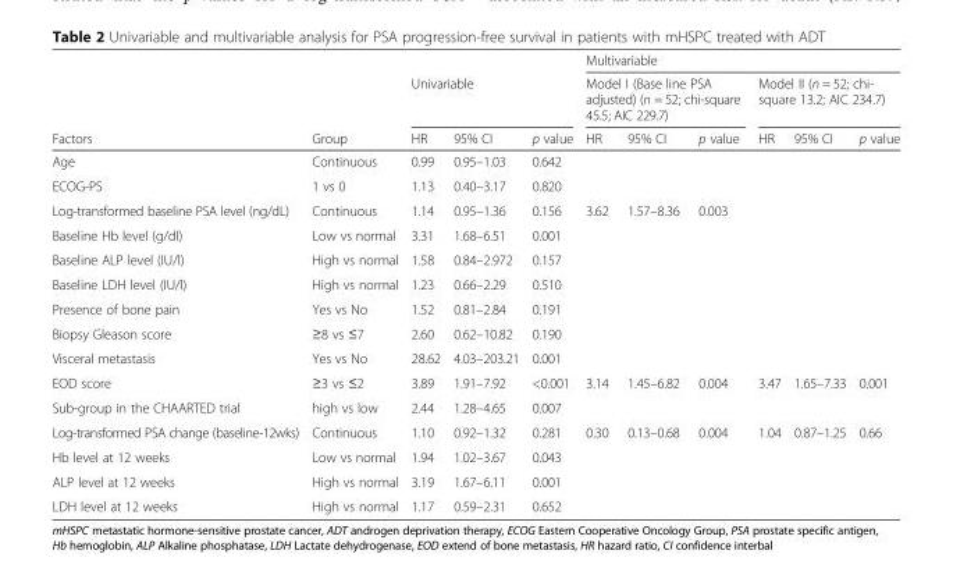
<table><thead><tr><td rowspan="3">Factors</td><td rowspan="3">Group</td><td></td><td></td><td></td><td colspan="6">Multivariable</td></tr><tr><td colspan="3">Univariable</td><td colspan="3">Model I (Base line PSA adjusted) (n = 52; chi-square 45.5; AIC 229.7)</td><td colspan="3">Model II (n = 52; chi- square 13.2; AIC 234.7)</td></tr><tr><td>HR</td><td>95% CI</td><td>p value</td><td>HR</td><td>95% CI</td><td>p value</td><td>HR</td><td>95% CI</td><td>p value</td></tr></thead><tbody><tr><td>Age</td><td>Continuous</td><td>0.99</td><td>0.95–1.03</td><td>0.642</td><td></td><td></td><td></td><td></td><td></td><td></td></tr><tr><td>ECOG-PS</td><td>1 vs 0</td><td>1.13</td><td>0.40–3.17</td><td>0.820</td><td></td><td></td><td></td><td></td><td></td><td></td></tr><tr><td>Log-transformed baseline PSA level (ng/dL)</td><td>Continuous</td><td>1.14</td><td>0.95–1.36</td><td>0.156</td><td>3.62</td><td>1.57–8.36</td><td>0.003</td><td></td><td></td><td></td></tr><tr><td>Baseline Hb level (g/dl)</td><td>Low vs normal</td><td>3.31</td><td>1.68–6.51</td><td>0.001</td><td></td><td></td><td></td><td></td><td></td><td></td></tr><tr><td>Baseline ALP level (IU/l)</td><td>High vs normal</td><td>1.58</td><td>0.84–2.972</td><td>0.157</td><td></td><td></td><td></td><td></td><td></td><td></td></tr><tr><td>Baseline LDH level (IU/l)</td><td>High vs normal</td><td>1.23</td><td>0.66–2.29</td><td>0.510</td><td></td><td></td><td></td><td></td><td></td><td></td></tr><tr><td>Presence of bone pain</td><td>Yes vs No</td><td>1.52</td><td>0.81–2.84</td><td>0.191</td><td></td><td></td><td></td><td></td><td></td><td></td></tr><tr><td>Biopsy Gleason score</td><td>≥8 vs ≤7</td><td>2.60</td><td>0.62–10.82</td><td>0.190</td><td></td><td></td><td></td><td></td><td></td><td></td></tr><tr><td>Visceral metastasis</td><td>Yes vs No</td><td>28.62</td><td>4.03–203.21</td><td>0.001</td><td></td><td></td><td></td><td></td><td></td><td></td></tr><tr><td>EOD score</td><td>≥3 vs ≤2</td><td>3.89</td><td>1.91–7.92</td><td>&lt;0.001</td><td>3.14</td><td>1.45–6.82</td><td>0.004</td><td>3.47</td><td>1.65–7.33</td><td>0.001</td></tr><tr><td>Sub-group in the CHAARTED trial</td><td>high vs low</td><td>2.44</td><td>1.28–4.65</td><td>0.007</td><td></td><td></td><td></td><td></td><td></td><td></td></tr><tr><td>Log-transformed PSA change (baseline-12wks)</td><td>Continuous</td><td>1.10</td><td>0.92–1.32</td><td>0.281</td><td>0.30</td><td>0.13–0.68</td><td>0.004</td><td>1.04</td><td>0.87–1.25</td><td>0.66</td></tr><tr><td>Hb level at 12 weeks</td><td>Low vs normal</td><td>1.94</td><td>1.02–3.67</td><td>0.043</td><td></td><td></td><td></td><td></td><td></td><td></td></tr><tr><td>ALP level at 12 weeks</td><td>High vs normal</td><td>3.19</td><td>1.67–6.11</td><td>0.001</td><td></td><td></td><td></td><td></td><td></td><td></td></tr><tr><td>LDH level at 12 weeks</td><td>High vs normal</td><td>1.17</td><td>0.59–2.31</td><td>0.652</td><td></td><td></td><td></td><td></td><td></td><td></td></tr></tbody></table>